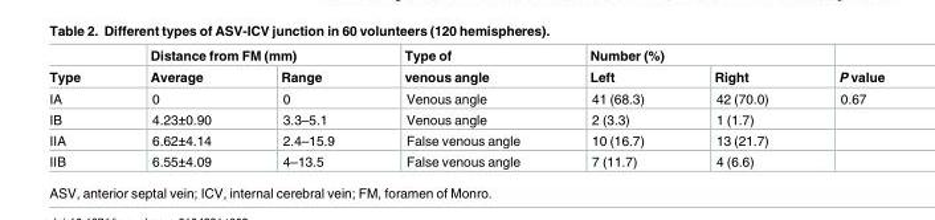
<table><thead><tr><td rowspan="2">Type</td><td colspan="2">Distance from FM (mm)</td><td rowspan="2">Type of venous angle</td><td colspan="2">Number (%)</td><td rowspan="2">P value</td></tr><tr><td>Average</td><td>Range</td><td>Left</td><td>Right</td></tr></thead><tbody><tr><td>IA</td><td>0</td><td>0</td><td>Venous angle</td><td>41 (68.3)</td><td>42 (70.0)</td><td>0.67</td></tr><tr><td>IB</td><td>4.23±0.90</td><td>3.3–5.1</td><td>Venous angle</td><td>2 (3.3)</td><td>1 (1.7)</td><td></td></tr><tr><td>IIA</td><td>6.62±4.14</td><td>2.4–15.9</td><td>False venous angle</td><td>10 (16.7)</td><td>13 (21.7)</td><td></td></tr><tr><td>IIB</td><td>6.55±4.09</td><td>4–13.5</td><td>False venous angle</td><td>7 (11.7)</td><td>4 (6.6)</td><td></td></tr></tbody></table>